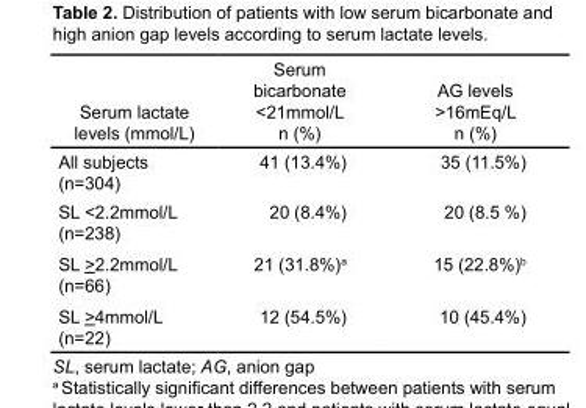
<table><thead><tr><td>Serum lactate levels (mmol/L)</td><td>Serum bicarbonate &lt;21mmol/L n (%)</td><td>AG levels &gt;16mEq/L n (%)</td></tr></thead><tbody><tr><td>All subjects (n=304)</td><td>41 (13.4%)</td><td>35 (11.5%)</td></tr><tr><td>SL &lt;2.2mmol/L (n=238)</td><td>20 (8.4%)</td><td>20 (8.5 %)</td></tr><tr><td>SL &gt;2.2mmol/L (n=66)</td><td>21 (31.8%)<sup>a</sup></td><td>15 (22.8%)<sup>b</sup></td></tr><tr><td>SL &gt;4mmol/L (n=22)</td><td>12 (54.5%)</td><td>10 (45.4%)</td></tr></tbody></table>